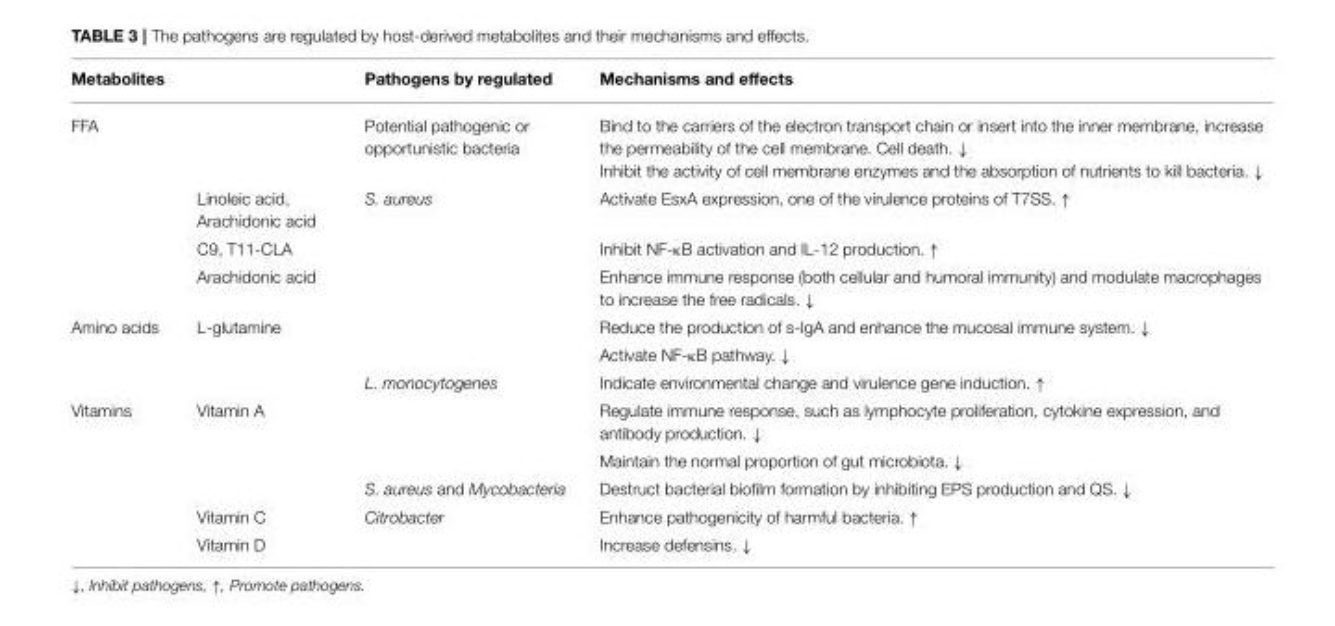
<table><thead><tr><td>Metabolites</td><td></td><td>Pathogens by regulated</td><td>Mechanisms and effects</td></tr></thead><tbody><tr><td rowspan="4">FFA</td><td></td><td>Potential pathogenic or opportunistic bacteria</td><td>Bind to the carriers of the electron transport chain or insert into the inner membrane, increase the permeability of the cell membrane. Cell death. ↓ Inhibit the activity of cell membrane enzymes and the absorption of nutrients to kill bacteria. ↓</td></tr><tr><td>Linoleic acid, Arachidonic acid</td><td>S. aureus</td><td>Activate EsxA expression, one of the virulence proteins of T7SS. ↑</td></tr><tr><td>C9, T11-CLA</td><td></td><td>Inhibit NF-κB activation and IL-12 production. ↑</td></tr><tr><td>Arachidonic acid</td><td></td><td>Enhance immune response (both cellular and humoral immunity) and modulate macrophages to increase the free radicals. ↓</td></tr><tr><td rowspan="3">Amino acids</td><td>L-glutamine</td><td></td><td>Reduce the production of s-IgA and enhance the mucosal immune system. ↓</td></tr><tr><td></td><td></td><td>Activate NF-κB pathway. ↓</td></tr><tr><td></td><td>L. monocytogenes</td><td>Indicate environmental change and virulence gene induction. ↑</td></tr><tr><td rowspan="5">Vitamins</td><td>Vitamin A</td><td></td><td>Regulate immune response, such as lymphocyte proliferation, cytokine expression, and antibody production. ↓</td></tr><tr><td></td><td></td><td>Maintain the normal proportion of gut microbiota. ↓</td></tr><tr><td></td><td>S. aureus and Mycobacteria</td><td>Destruct bacterial biofilm formation by inhibiting EPS production and QS. ↓</td></tr><tr><td>Vitamin C</td><td>Citrobacter</td><td>Enhance pathogenicity of harmful bacteria. ↑</td></tr><tr><td>Vitamin D</td><td></td><td>Increase defensins. ↓</td></tr></tbody></table>